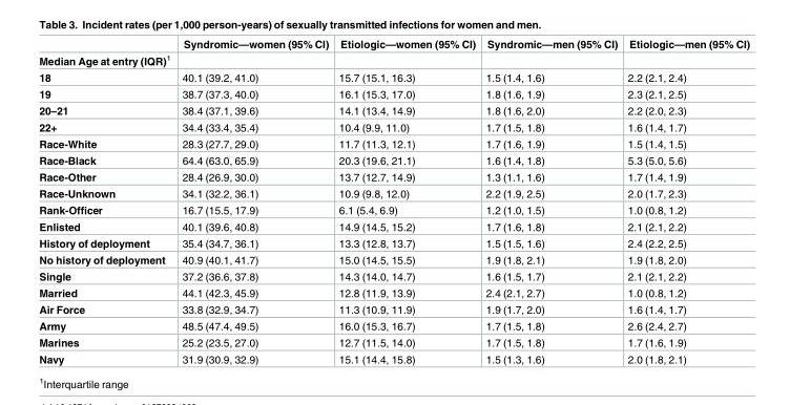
<table><thead><tr><td></td><td>Syndromic—women (95% CI)</td><td>Etiologic—women (95% CI)</td><td>Syndromic—men (95% CI)</td><td>Etiologic—men (95% CI)</td></tr></thead><tbody><tr><td colspan="5">Median Age at entry (IQR)<sup>1</sup></td></tr><tr><td>18</td><td>40.1 (39.2, 41.0)</td><td>15.7 (15.1, 16.3)</td><td>1.5 (1.4, 1.6)</td><td>2.2 (2.1, 2.4)</td></tr><tr><td>19</td><td>38.7 (37.3, 40.0)</td><td>16.1 (15.3, 17.0)</td><td>1.8 (1.6, 1.9)</td><td>2.3 (2.1, 2.5)</td></tr><tr><td>20–21</td><td>38.4 (37.1, 39.6)</td><td>14.1 (13.4, 14.9)</td><td>1.8 (1.6, 2.0)</td><td>2.2 (2.0, 2.3)</td></tr><tr><td>22+</td><td>34.4 (33.4, 35.4)</td><td>10.4 (9.9, 11.0)</td><td>1.7 (1.5, 1.8)</td><td>1.6 (1.4, 1.7)</td></tr><tr><td>Race-White</td><td>28.3 (27.7, 29.0)</td><td>11.7 (11.3, 12.1)</td><td>1.7 (1.6, 1.9)</td><td>1.5 (1.4, 1.5)</td></tr><tr><td>Race-Black</td><td>64.4 (63.0, 65.9)</td><td>20.3 (19.6, 21.1)</td><td>1.6 (1.4, 1.8)</td><td>5.3 (5.0, 5.6)</td></tr><tr><td>Race-Other</td><td>28.4 (26.9, 30.0)</td><td>13.7 (12.7, 14.9)</td><td>1.3 (1.1, 1.6)</td><td>1.7 (1.4, 1.9)</td></tr><tr><td>Race-Unknown</td><td>34.1 (32.2, 36.1)</td><td>10.9 (9.8, 12.0)</td><td>2.2 (1.9, 2.5)</td><td>2.0 (1.7, 2.3)</td></tr><tr><td>Rank-Officer</td><td>16.7 (15.5, 17.9)</td><td>6.1 (5.4, 6.9)</td><td>1.2 (1.0, 1.5)</td><td>1.0 (0.8, 1.2)</td></tr><tr><td>Enlisted</td><td>40.1 (39.6, 40.8)</td><td>14.9 (14.5, 15.2)</td><td>1.7 (1.6, 1.8)</td><td>2.1 (2.1, 2.2)</td></tr><tr><td>History of deployment</td><td>35.4 (34.7, 36.1)</td><td>13.3 (12.8, 13.7)</td><td>1.5 (1.5, 1.6)</td><td>2.4 (2.2, 2.5)</td></tr><tr><td>No history of deployment</td><td>40.9 (40.1, 41.7)</td><td>15.0 (14.5, 15.5)</td><td>1.9 (1.8, 2.1)</td><td>1.9 (1.8, 2.0)</td></tr><tr><td>Single</td><td>37.2 (36.6, 37.8)</td><td>14.3 (14.0, 14.7)</td><td>1.6 (1.5, 1.7)</td><td>2.1 (2.1, 2.2)</td></tr><tr><td>Married</td><td>44.1 (42.3, 45.9)</td><td>12.8 (11.9, 13.9)</td><td>2.4 (2.1, 2.7)</td><td>1.0 (0.8, 1.2)</td></tr><tr><td>Air Force</td><td>33.8 (32.9, 34.7)</td><td>11.3 (10.9, 11.9)</td><td>1.9 (1.7, 2.0)</td><td>1.6 (1.4, 1.7)</td></tr><tr><td>Army</td><td>48.5 (47.4, 49.5)</td><td>16.0 (15.3, 16.7)</td><td>1.7 (1.5, 1.8)</td><td>2.6 (2.4, 2.7)</td></tr><tr><td>Marines</td><td>25.2 (23.5, 27.0)</td><td>12.7 (11.5, 14.0)</td><td>1.7 (1.5, 1.8)</td><td>1.7 (1.6, 1.9)</td></tr><tr><td>Navy</td><td>31.9 (30.9, 32.9)</td><td>15.1 (14.4, 15.8)</td><td>1.5 (1.3, 1.6)</td><td>2.0 (1.8, 2.1)</td></tr></tbody></table>